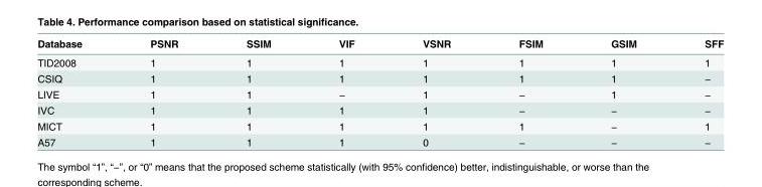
<table><thead><tr><td>Database</td><td>PSNR</td><td>SSIM</td><td>VIF</td><td>VSNR</td><td>FSIM</td><td>GSIM</td><td>SFF</td></tr></thead><tbody><tr><td>TID2008</td><td>1</td><td>1</td><td>1</td><td>1</td><td>1</td><td>1</td><td>1</td></tr><tr><td>CSIQ</td><td>1</td><td>1</td><td>1</td><td>1</td><td>1</td><td>1</td><td>−</td></tr><tr><td>LIVE</td><td>1</td><td>1</td><td>−</td><td>1</td><td>−</td><td>1</td><td>−</td></tr><tr><td>IVC</td><td>1</td><td>1</td><td>1</td><td>1</td><td>−</td><td>−</td><td>−</td></tr><tr><td>MICT</td><td>1</td><td>1</td><td>1</td><td>1</td><td>1</td><td>−</td><td>1</td></tr><tr><td>A57</td><td>1</td><td>1</td><td>1</td><td>0</td><td>−</td><td>−</td><td>−</td></tr></tbody></table>